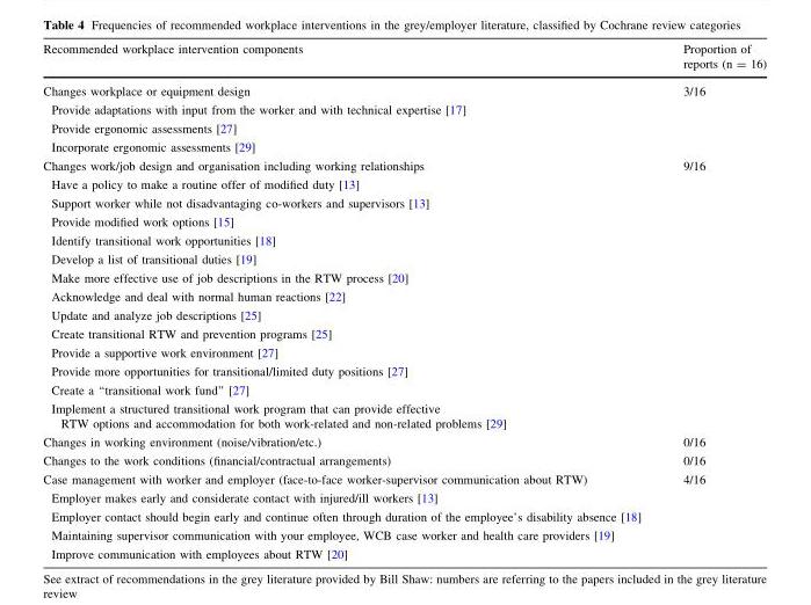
<table><thead><tr><td>Recommended workplace intervention components</td><td>Proportion of reports (n = 16)</td></tr></thead><tbody><tr><td>Changes workplace or equipment design</td><td rowspan="4">3/16</td></tr><tr><td>Provide adaptations with input from the worker and with technical expertise [17]</td></tr><tr><td>Provide ergonomic assessments [27]</td></tr><tr><td>Incorporate ergonomic assessments [29]</td></tr><tr><td>Changes work/job design and organisation including working relationships</td><td rowspan="14">9/16</td></tr><tr><td>Have a policy to make a routine offer of modified duty [13]</td></tr><tr><td>Support worker while not disadvantaging co-workers and supervisors [13]</td></tr><tr><td>Provide modified work options [15]</td></tr><tr><td>Identify transitional work opportunities [18]</td></tr><tr><td>Develop a list of transitional duties [19]</td></tr><tr><td>Make more effective use of job descriptions in the RTW process [20]</td></tr><tr><td>Acknowledge and deal with normal human reactions [22]</td></tr><tr><td>Update and analyze job descriptions [25]</td></tr><tr><td>Create transitional RTW and prevention programs [25]</td></tr><tr><td>Provide a supportive work environment [27]</td></tr><tr><td>Provide more opportunities for transitional/limited duty positions [27]</td></tr><tr><td>Create a ‘‘transitional work fund’’ [27]</td></tr><tr><td>Implement a structured transitional work program that can provide effective RTW options and accommodation for both work-related and non-related problems [29]</td></tr><tr><td>Changes in working environment (noise/vibration/etc.)</td><td>0/16</td></tr><tr><td>Changes to the work conditions (financial/contractual arrangements)</td><td>0/16</td></tr><tr><td>Case management with worker and employer (face-to-face worker-supervisor communication about RTW)</td><td rowspan="5">4/16</td></tr><tr><td>Employer makes early and considerate contact with injured/ill workers [13]</td></tr><tr><td>Employer contact should begin early and continue often through duration of the employee’s disability absence [18]</td></tr><tr><td>Maintaining supervisor communication with your employee, WCB case worker and health care providers [19]</td></tr><tr><td>Improve communication with employees about RTW [20]</td></tr></tbody></table>